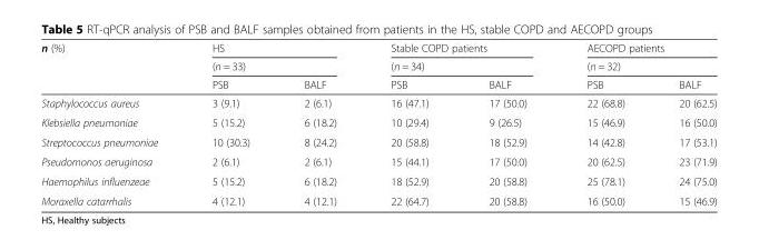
<table><thead><tr><td rowspan="3">n (%)</td><td rowspan="2" colspan="2">HS (n = 33)</td><td rowspan="2" colspan="2">Stable COPD patients (n = 34)</td><td rowspan="2" colspan="2">AECOPD patients (n = 32)</td></tr><tr></tr><tr><td>PSB</td><td>BALF</td><td>PSB</td><td>BALF</td><td>PSB</td><td>BALF</td></tr></thead><tbody><tr><td>Staphylococcus aureus</td><td>3 (9.1)</td><td>2 (6.1)</td><td>16 (47.1)</td><td>17 (50.0)</td><td>22 (68.8)</td><td>20 (62.5)</td></tr><tr><td>Klebsiella pneumoniae</td><td>5 (15.2)</td><td>6 (18.2)</td><td>10 (29.4)</td><td>9 (26.5)</td><td>15 (46.9)</td><td>16 (50.0)</td></tr><tr><td>Streptococcus pneumoniae</td><td>10 (30.3)</td><td>8 (24.2)</td><td>20 (58.8)</td><td>18 (52.9)</td><td>14 (42.8)</td><td>17 (53.1)</td></tr><tr><td>Pseudomonos aeruginosa</td><td>2 (6.1)</td><td>2 (6.1)</td><td>15 (44.1)</td><td>17 (50.0)</td><td>20 (62.5)</td><td>23 (71.9)</td></tr><tr><td>Haemophilus influenzeae</td><td>5 (15.2)</td><td>6 (18.2)</td><td>18 (52.9)</td><td>20 (58.8)</td><td>25 (78.1)</td><td>24 (75.0)</td></tr><tr><td>Moraxella catarrhalis</td><td>4 (12.1)</td><td>4 (12.1)</td><td>22 (64.7)</td><td>20 (58.8)</td><td>16 (50.0)</td><td>15 (46.9)</td></tr></tbody></table>